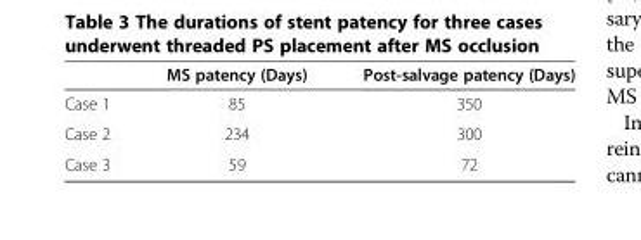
<table><thead><tr><td></td><td>MS patency (Days)</td><td>Post-salvage patency (Days)</td></tr></thead><tbody><tr><td>Case 1</td><td>85</td><td>350</td></tr><tr><td>Case 2</td><td>234</td><td>300</td></tr><tr><td>Case 3</td><td>59</td><td>72</td></tr></tbody></table>